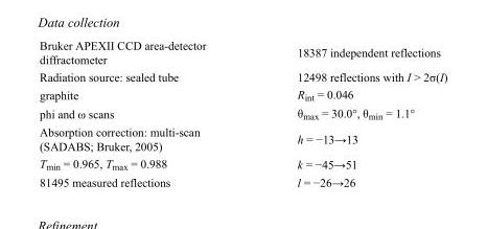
<table><tbody><tr><td>Bruker APEXII CCD area-detector diffractometer</td><td>18387 independent reflections</td></tr><tr><td>Radiation source: sealed tube</td><td>12498 reflections with I &gt; 2σ(I)</td></tr><tr><td>graphite</td><td>R<sub>int</sub> = 0.046</td></tr><tr><td>phi and ω scans</td><td>θ<sub>max</sub> = 30.0°, θ<sub>min</sub> = 1.1°</td></tr><tr><td>Absorption correction: multi-scan (SADABS; Bruker, 2005)</td><td>h = −13→13</td></tr><tr><td>T<sub>min</sub> = 0.965, T<sub>max</sub> = 0.988</td><td>k = −45→51</td></tr><tr><td>81495 measured reflections</td><td>l = −26→26</td></tr></tbody></table>